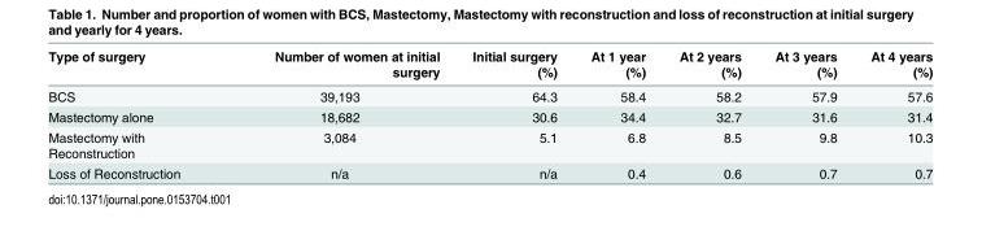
<table><thead><tr><td>Type of surgery</td><td>Number of women at initial surgery</td><td>Initial surgery (%)</td><td>At 1 year (%)</td><td>At 2 years (%)</td><td>At 3 years (%)</td><td>At 4 years (%)</td></tr></thead><tbody><tr><td>BCS</td><td>39,193</td><td>64.3</td><td>58.4</td><td>58.2</td><td>57.9</td><td>57.6</td></tr><tr><td>Mastectomy alone</td><td>18,682</td><td>30.6</td><td>34.4</td><td>32.7</td><td>31.6</td><td>31.4</td></tr><tr><td>Mastectomy with Reconstruction</td><td>3,084</td><td>5.1</td><td>6.8</td><td>8.5</td><td>9.8</td><td>10.3</td></tr><tr><td>Loss of Reconstruction</td><td>n/a</td><td>n/a</td><td>0.4</td><td>0.6</td><td>0.7</td><td>0.7</td></tr></tbody></table>